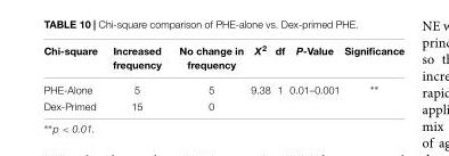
<table><thead><tr><td>Chi-square</td><td>Increased frequency</td><td>No change in frequency</td><td>X<sup>2</sup></td><td>df</td><td>P-Value</td><td>Significance</td></tr></thead><tbody><tr><td>PHE-Alone</td><td>5</td><td>5</td><td>9.38</td><td>1</td><td>0.01–0.001</td><td>∗∗</td></tr><tr><td>Dex-Primed</td><td>15</td><td>0</td><td></td><td></td><td></td><td></td></tr></tbody></table>